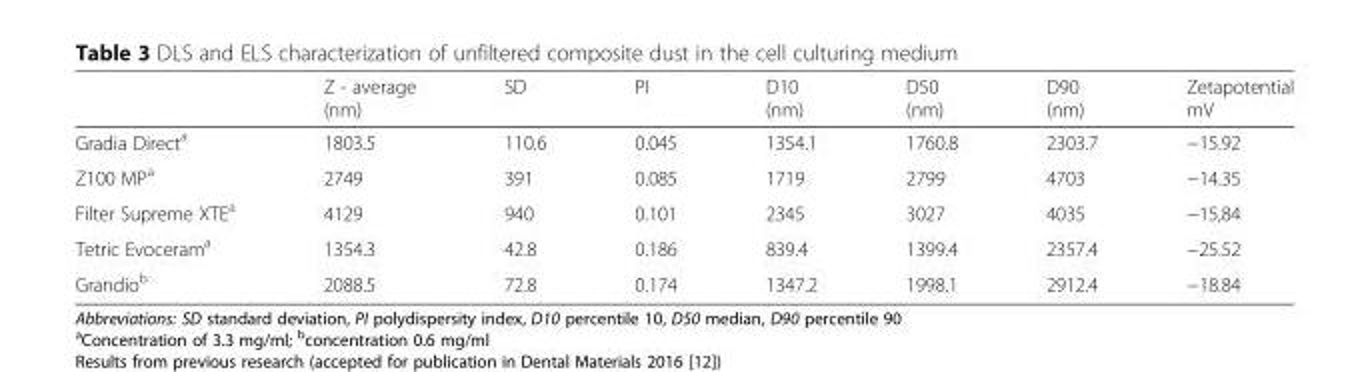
<table><thead><tr><td></td><td>Z - average (nm)</td><td>SD</td><td>PI</td><td>D10 (nm)</td><td>D50 (nm)</td><td>D90 (nm)</td><td>Zetapotential mV</td></tr></thead><tbody><tr><td>Gradia Direct<sup>a</sup></td><td>1803.5</td><td>110.6</td><td>0.045</td><td>1354.1</td><td>1760.8</td><td>2303.7</td><td>−15.92</td></tr><tr><td>Z100 MP<sup>a</sup></td><td>2749</td><td>391</td><td>0.085</td><td>1719</td><td>2799</td><td>4703</td><td>−14.35</td></tr><tr><td>Filter Supreme XTE<sup>a</sup></td><td>4129</td><td>940</td><td>0.101</td><td>2345</td><td>3027</td><td>4035</td><td>−15,84</td></tr><tr><td>Tetric Evoceram<sup>a</sup></td><td>1354.3</td><td>42.8</td><td>0.186</td><td>839.4</td><td>1399.4</td><td>2357.4</td><td>−25.52</td></tr><tr><td>Grandio<sup>b</sup></td><td>2088.5</td><td>72.8</td><td>0.174</td><td>1347.2</td><td>1998.1</td><td>2912.4</td><td>−18.84</td></tr></tbody></table>